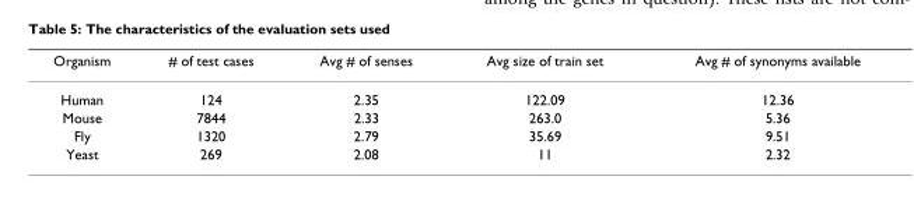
<table><thead><tr><td>Organism</td><td># of test cases</td><td>Avg # of senses</td><td>Avg size of train set</td><td>Avg # of synonyms available</td></tr></thead><tbody><tr><td>Human</td><td>124</td><td>2.35</td><td>122.09</td><td>12.36</td></tr><tr><td>Mouse</td><td>7844</td><td>2.33</td><td>263.0</td><td>5.36</td></tr><tr><td>Fly</td><td>1320</td><td>2.79</td><td>35.69</td><td>9.51</td></tr><tr><td>Yeast</td><td>269</td><td>2.08</td><td>11</td><td>2.32</td></tr></tbody></table>